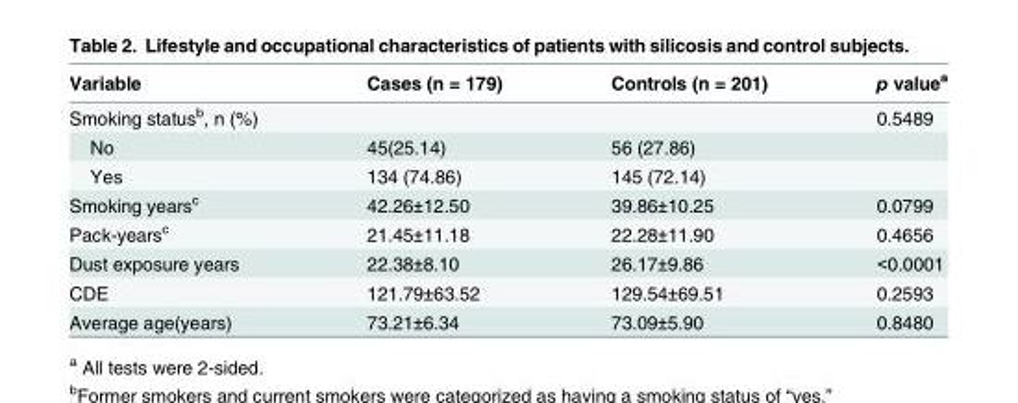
<table><thead><tr><td>Variable</td><td>Cases (n = 179)</td><td>Controls (n = 201)</td><td>p value<sup>a</sup></td></tr></thead><tbody><tr><td>Smoking status<sup>b</sup>, n (%)</td><td></td><td></td><td>0.5489</td></tr><tr><td>No</td><td>45(25.14)</td><td>56 (27.86)</td><td></td></tr><tr><td>Yes</td><td>134 (74.86)</td><td>145 (72.14)</td><td></td></tr><tr><td>Smoking years<sup>c</sup></td><td>42.26±12.50</td><td>39.86±10.25</td><td>0.0799</td></tr><tr><td>Pack-years<sup>c</sup></td><td>21.45±11.18</td><td>22.28±11.90</td><td>0.4656</td></tr><tr><td>Dust exposure years</td><td>22.38±8.10</td><td>26.17±9.86</td><td>&lt;0.0001</td></tr><tr><td>CDE</td><td>121.79±63.52</td><td>129.54±69.51</td><td>0.2593</td></tr><tr><td>Average age(years)</td><td>73.21±6.34</td><td>73.09±5.90</td><td>0.8480</td></tr></tbody></table>